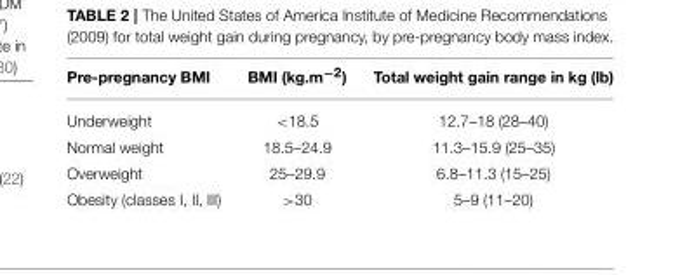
<table><thead><tr><td>Pre-pregnancy BMI</td><td>BMI (kg.m<sup>−2</sup>)</td><td>Total weight gain range in kg (lb)</td></tr></thead><tbody><tr><td>Underweight</td><td>&lt;18.5</td><td>12.7–18 (28–40)</td></tr><tr><td>Normal weight</td><td>18.5–24.9</td><td>11.3–15.9 (25–35)</td></tr><tr><td>Overweight</td><td>25–29.9</td><td>6.8–11.3 (15–25)</td></tr><tr><td>Obesity (classes I, II, III)</td><td>&gt;30</td><td>5–9 (11–20)</td></tr></tbody></table>